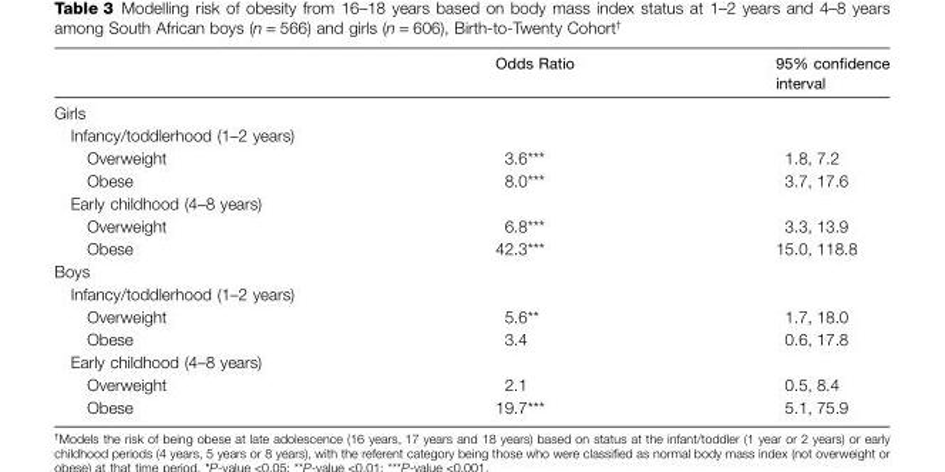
<table><thead><tr><td></td><td>Odds Ratio</td><td>95% confidence interval</td></tr></thead><tbody><tr><td colspan="3">Girls</td></tr><tr><td colspan="3">Infancy/toddlerhood (1–2 years)</td></tr><tr><td>Overweight</td><td>3.6***</td><td>1.8, 7.2</td></tr><tr><td>Obese</td><td>8.0***</td><td>3.7, 17.6</td></tr><tr><td colspan="3">Early childhood (4–8 years)</td></tr><tr><td>Overweight</td><td>6.8***</td><td>3.3, 13.9</td></tr><tr><td>Obese</td><td>42.3***</td><td>15.0, 118.8</td></tr><tr><td colspan="3">Boys</td></tr><tr><td colspan="3">Infancy/toddlerhood (1–2 years)</td></tr><tr><td>Overweight</td><td>5.6**</td><td>1.7, 18.0</td></tr><tr><td>Obese</td><td>3.4</td><td>0.6, 17.8</td></tr><tr><td colspan="3">Early childhood (4–8 years)</td></tr><tr><td>Overweight</td><td>2.1</td><td>0.5, 8.4</td></tr><tr><td>Obese</td><td>19.7***</td><td>5.1, 75.9</td></tr></tbody></table>